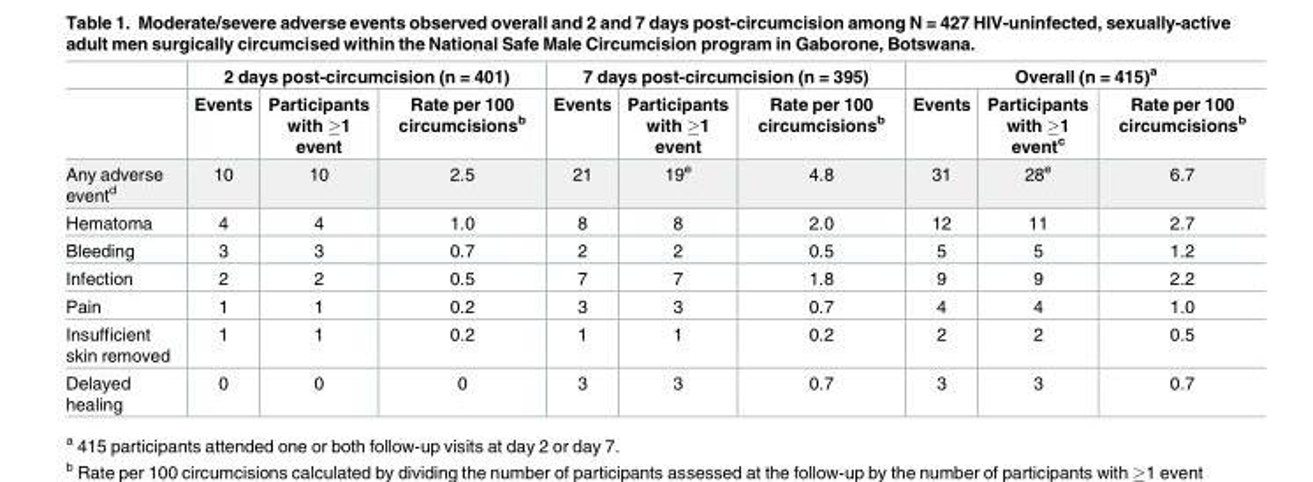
<table><thead><tr><td rowspan="2"></td><td colspan="3">2 days post-circumcision (n = 401)</td><td colspan="3">7 days post-circumcision (n = 395)</td><td colspan="3">Overall (n = 415)<sup>a</sup></td></tr><tr><td>Events</td><td>Participants with ≥1 event</td><td>Rate per 100 circumcisions<sup>b</sup></td><td>Events</td><td>Participants with ≥1 event</td><td>Rate per 100 circumcisions<sup>b</sup></td><td>Events</td><td>Participants with ≥1 event<sup>c</sup></td><td>Rate per 100 circumcisions<sup>b</sup></td></tr></thead><tbody><tr><td>Any adverse event<sup>d</sup></td><td>10</td><td>10</td><td>2.5</td><td>21</td><td>19<sup>e</sup></td><td>4.8</td><td>31</td><td>28<sup>e</sup></td><td>6.7</td></tr><tr><td>Hematoma</td><td>4</td><td>4</td><td>1.0</td><td>8</td><td>8</td><td>2.0</td><td>12</td><td>11</td><td>2.7</td></tr><tr><td>Bleeding</td><td>3</td><td>3</td><td>0.7</td><td>2</td><td>2</td><td>0.5</td><td>5</td><td>5</td><td>1.2</td></tr><tr><td>Infection</td><td>2</td><td>2</td><td>0.5</td><td>7</td><td>7</td><td>1.8</td><td>9</td><td>9</td><td>2.2</td></tr><tr><td>Pain</td><td>1</td><td>1</td><td>0.2</td><td>3</td><td>3</td><td>0.7</td><td>4</td><td>4</td><td>1.0</td></tr><tr><td>Insufficient skin removed</td><td>1</td><td>1</td><td>0.2</td><td>1</td><td>1</td><td>0.2</td><td>2</td><td>2</td><td>0.5</td></tr><tr><td>Delayed healing</td><td>0</td><td>0</td><td>0</td><td>3</td><td>3</td><td>0.7</td><td>3</td><td>3</td><td>0.7</td></tr></tbody></table>